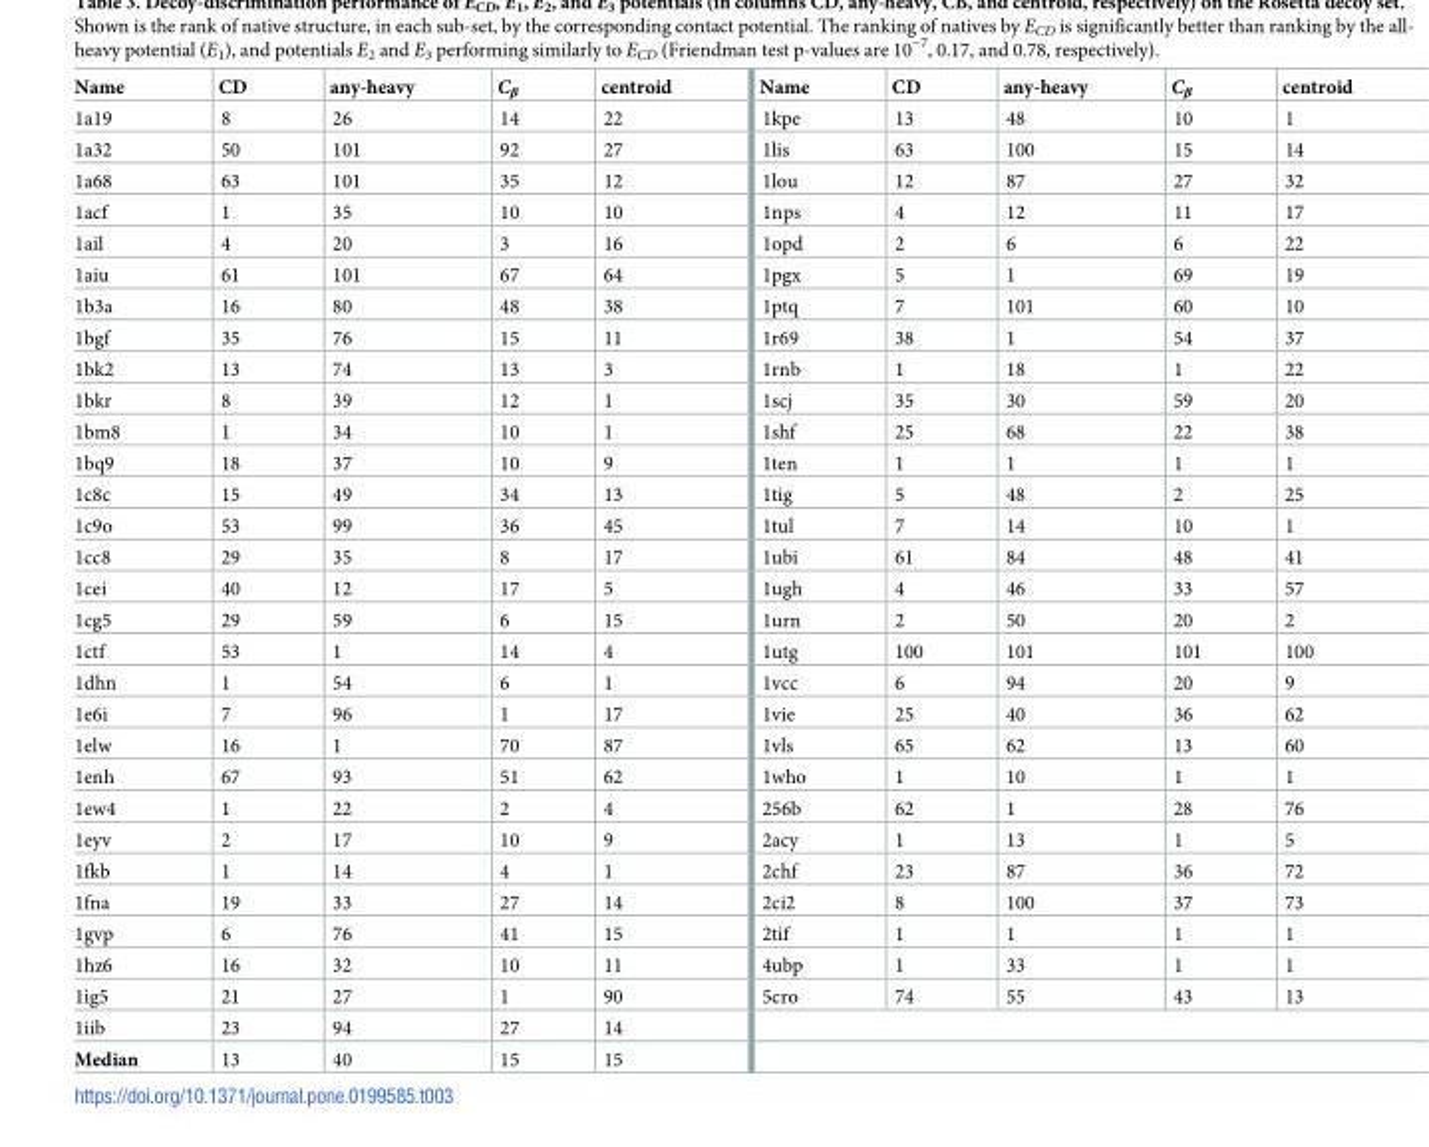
<table><thead><tr><td>Name</td><td>CD</td><td>any-heavy</td><td>C<sub>β</sub></td><td>centroid</td><td>Name</td><td>CD</td><td>any-heavy</td><td>C<sub>β</sub></td><td>centroid</td></tr></thead><tbody><tr><td>1a19</td><td>8</td><td>26</td><td>14</td><td>22</td><td>1kpe</td><td>13</td><td>48</td><td>10</td><td>1</td></tr><tr><td>1a32</td><td>50</td><td>101</td><td>92</td><td>27</td><td>1lis</td><td>63</td><td>100</td><td>15</td><td>14</td></tr><tr><td>1a68</td><td>63</td><td>101</td><td>35</td><td>12</td><td>1lou</td><td>12</td><td>87</td><td>27</td><td>32</td></tr><tr><td>1acf</td><td>1</td><td>35</td><td>10</td><td>10</td><td>1nps</td><td>4</td><td>12</td><td>11</td><td>17</td></tr><tr><td>1ail</td><td>4</td><td>20</td><td>3</td><td>16</td><td>1opd</td><td>2</td><td>6</td><td>6</td><td>22</td></tr><tr><td>1aiu</td><td>61</td><td>101</td><td>67</td><td>64</td><td>1pgx</td><td>5</td><td>1</td><td>69</td><td>19</td></tr><tr><td>1b3a</td><td>16</td><td>80</td><td>48</td><td>38</td><td>1ptq</td><td>7</td><td>101</td><td>60</td><td>10</td></tr><tr><td>1bgf</td><td>35</td><td>76</td><td>15</td><td>11</td><td>1r69</td><td>38</td><td>1</td><td>54</td><td>37</td></tr><tr><td>1bk2</td><td>13</td><td>74</td><td>13</td><td>3</td><td>1rnb</td><td>1</td><td>18</td><td>1</td><td>22</td></tr><tr><td>1bkr</td><td>8</td><td>39</td><td>12</td><td>1</td><td>1scj</td><td>35</td><td>30</td><td>59</td><td>20</td></tr><tr><td>1bm8</td><td>1</td><td>34</td><td>10</td><td>1</td><td>1shf</td><td>25</td><td>68</td><td>22</td><td>38</td></tr><tr><td>1bq9</td><td>18</td><td>37</td><td>10</td><td>9</td><td>1ten</td><td>1</td><td>1</td><td>1</td><td>1</td></tr><tr><td>1c8c</td><td>15</td><td>49</td><td>34</td><td>13</td><td>1tig</td><td>5</td><td>48</td><td>2</td><td>25</td></tr><tr><td>1c9o</td><td>53</td><td>99</td><td>36</td><td>45</td><td>1tul</td><td>7</td><td>14</td><td>10</td><td>1</td></tr><tr><td>1cc8</td><td>29</td><td>35</td><td>8</td><td>17</td><td>1ubi</td><td>61</td><td>84</td><td>48</td><td>41</td></tr><tr><td>1cei</td><td>40</td><td>12</td><td>17</td><td>5</td><td>1ugh</td><td>4</td><td>46</td><td>33</td><td>57</td></tr><tr><td>1cg5</td><td>29</td><td>59</td><td>6</td><td>15</td><td>1urn</td><td>2</td><td>50</td><td>20</td><td>2</td></tr><tr><td>1ctf</td><td>53</td><td>1</td><td>14</td><td>4</td><td>1utg</td><td>100</td><td>101</td><td>101</td><td>100</td></tr><tr><td>1dhn</td><td>1</td><td>54</td><td>6</td><td>1</td><td>1vcc</td><td>6</td><td>94</td><td>20</td><td>9</td></tr><tr><td>1e6i</td><td>7</td><td>96</td><td>1</td><td>17</td><td>1vie</td><td>25</td><td>40</td><td>36</td><td>62</td></tr><tr><td>1elw</td><td>16</td><td>1</td><td>70</td><td>87</td><td>1vls</td><td>65</td><td>62</td><td>13</td><td>60</td></tr><tr><td>1enh</td><td>67</td><td>93</td><td>51</td><td>62</td><td>1who</td><td>1</td><td>10</td><td>1</td><td>1</td></tr><tr><td>1ew4</td><td>1</td><td>22</td><td>2</td><td>4</td><td>256b</td><td>62</td><td>1</td><td>28</td><td>76</td></tr><tr><td>1eyv</td><td>2</td><td>17</td><td>10</td><td>9</td><td>2acy</td><td>1</td><td>13</td><td>1</td><td>5</td></tr><tr><td>1fkb</td><td>1</td><td>14</td><td>4</td><td>1</td><td>2chf</td><td>23</td><td>87</td><td>36</td><td>72</td></tr><tr><td>1fna</td><td>19</td><td>33</td><td>27</td><td>14</td><td>2ci2</td><td>8</td><td>100</td><td>37</td><td>73</td></tr><tr><td>1gvp</td><td>6</td><td>76</td><td>41</td><td>15</td><td>2tif</td><td>1</td><td>1</td><td>1</td><td>1</td></tr><tr><td>1hz6</td><td>16</td><td>32</td><td>10</td><td>11</td><td>4ubp</td><td>1</td><td>33</td><td>1</td><td>1</td></tr><tr><td>1ig5</td><td>21</td><td>27</td><td>1</td><td>90</td><td>5cro</td><td>74</td><td>55</td><td>43</td><td>13</td></tr><tr><td>1iib</td><td>23</td><td>94</td><td>27</td><td>14</td><td colspan="5"></td></tr><tr><td>Median</td><td>13</td><td>40</td><td>15</td><td>15</td><td colspan="5"></td></tr></tbody></table>